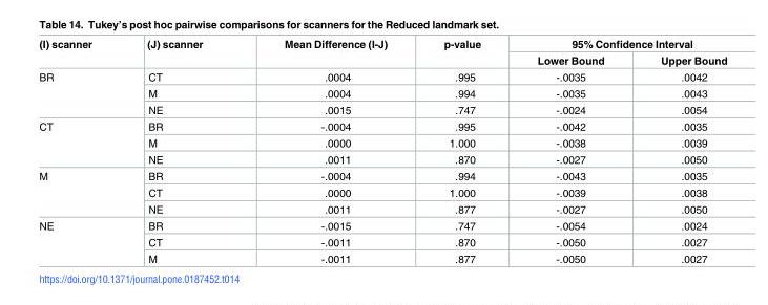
<table><thead><tr><td rowspan="2">(I) scanner</td><td rowspan="2">(J) scanner</td><td rowspan="2">Mean Difference (I-J)</td><td rowspan="2">p-value</td><td colspan="2">95% Confidence Interval</td></tr><tr><td>Lower Bound</td><td>Upper Bound</td></tr></thead><tbody><tr><td rowspan="3">BR</td><td>CT</td><td>.0004</td><td>.995</td><td>-.0035</td><td>.0042</td></tr><tr><td>M</td><td>.0004</td><td>.994</td><td>-.0035</td><td>.0043</td></tr><tr><td>NE</td><td>.0015</td><td>.747</td><td>-.0024</td><td>.0054</td></tr><tr><td rowspan="3">CT</td><td>BR</td><td>-.0004</td><td>.995</td><td>-.0042</td><td>.0035</td></tr><tr><td>M</td><td>.0000</td><td>1.000</td><td>-.0038</td><td>.0039</td></tr><tr><td>NE</td><td>.0011</td><td>.870</td><td>-.0027</td><td>.0050</td></tr><tr><td rowspan="3">M</td><td>BR</td><td>-.0004</td><td>.994</td><td>-.0043</td><td>.0035</td></tr><tr><td>CT</td><td>.0000</td><td>1.000</td><td>-.0039</td><td>.0038</td></tr><tr><td>NE</td><td>.0011</td><td>.877</td><td>-.0027</td><td>.0050</td></tr><tr><td rowspan="3">NE</td><td>BR</td><td>-.0015</td><td>.747</td><td>-.0054</td><td>.0024</td></tr><tr><td>CT</td><td>-.0011</td><td>.870</td><td>-.0050</td><td>.0027</td></tr><tr><td>M</td><td>-.0011</td><td>.877</td><td>-.0050</td><td>.0027</td></tr></tbody></table>